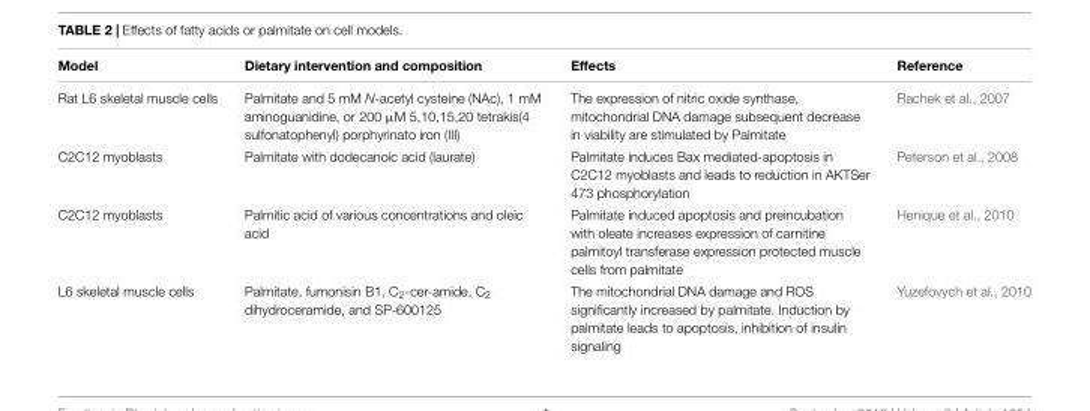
<table><thead><tr><td>Model</td><td>Dietary intervention and composition</td><td>Effects</td><td>Reference</td></tr></thead><tbody><tr><td>Rat L6 skeletal muscle cells</td><td>Palmitate and 5 mM N-acetyl cysteine (NAc), 1 mM aminoguanidine, or 200 µM 5,10,15,20 tetrakis(4 sulfonatophenyl) porphyrinato iron (III)</td><td>The expression of nitric oxide synthase, mitochondrial DNA damage subsequent decrease in viability are stimulated by Palmitate</td><td>Rachek et al., 2007</td></tr><tr><td>C2C12 myoblasts</td><td>Palmitate with dodecanoic acid (laurate)</td><td>Palmitate induces Bax mediated-apoptosis in C2C12 myoblasts and leads to reduction in AKTSer 473 phosphorylation</td><td>Peterson et al., 2008</td></tr><tr><td>C2C12 myoblasts</td><td>Palmitic acid of various concentrations and oleic acid</td><td>Palmitate induced apoptosis and preincubation with oleate increases expression of carnitine palmitoyl transferase expression protected muscle cells from palmitate</td><td>Henique et al., 2010</td></tr><tr><td>L6 skeletal muscle cells</td><td>Palmitate, fumonisin B1, C<sub>2</sub>-cer-amide, C<sub>2</sub> dihydroceramide, and SP-600125</td><td>The mitochondrial DNA damage and ROS significantly increased by palmitate. Induction by palmitate leads to apoptosis, inhibition of insulin signaling</td><td>Yuzefovych et al., 2010</td></tr></tbody></table>